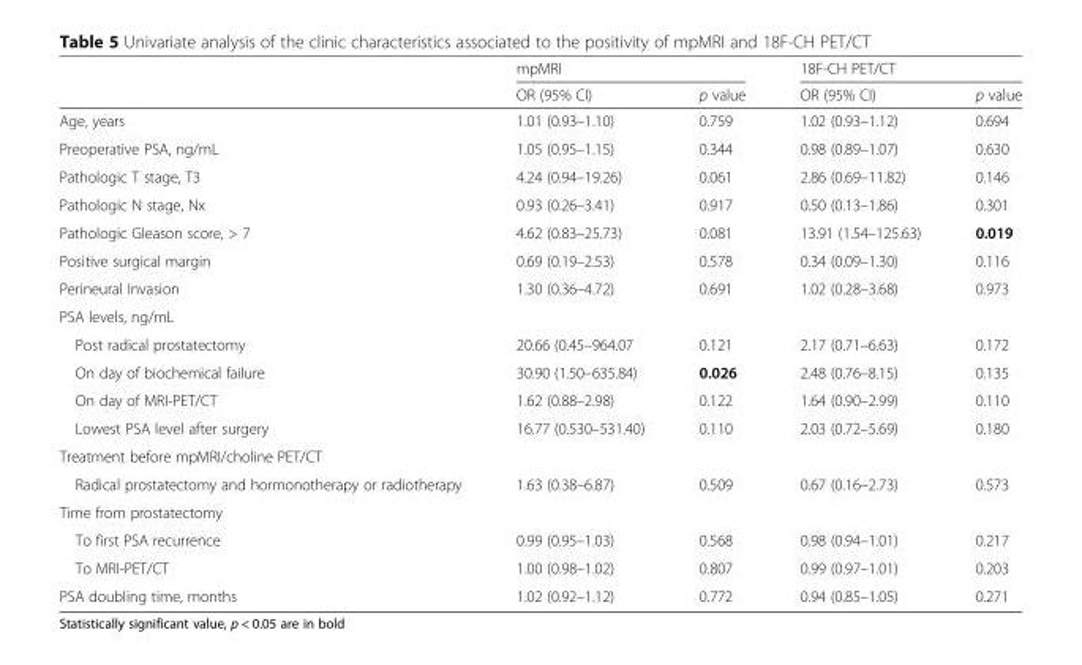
<table><thead><tr><td rowspan="2"></td><td colspan="2">mpMRI</td><td colspan="2">18F-CH PET/CT</td></tr><tr><td>OR (95% CI)</td><td>p value</td><td>OR (95% CI)</td><td>p value</td></tr></thead><tbody><tr><td>Age, years</td><td>1.01 (0.93–1.10)</td><td>0.759</td><td>1.02 (0.93–1.12)</td><td>0.694</td></tr><tr><td>Preoperative PSA, ng/mL</td><td>1.05 (0.95–1.15)</td><td>0.344</td><td>0.98 (0.89–1.07)</td><td>0.630</td></tr><tr><td>Pathologic T stage, T3</td><td>4.24 (0.94–19.26)</td><td>0.061</td><td>2.86 (0.69–11.82)</td><td>0.146</td></tr><tr><td>Pathologic N stage, Nx</td><td>0.93 (0.26–3.41)</td><td>0.917</td><td>0.50 (0.13–1.86)</td><td>0.301</td></tr><tr><td>Pathologic Gleason score, &gt; 7</td><td>4.62 (0.83–25.73)</td><td>0.081</td><td>13.91 (1.54–125.63)</td><td>0.019</td></tr><tr><td>Positive surgical margin</td><td>0.69 (0.19–2.53)</td><td>0.578</td><td>0.34 (0.09–1.30)</td><td>0.116</td></tr><tr><td>Perineural Invasion</td><td>1.30 (0.36–4.72)</td><td>0.691</td><td>1.02 (0.28–3.68)</td><td>0.973</td></tr><tr><td colspan="5">PSA levels, ng/mL</td></tr><tr><td>Post radical prostatectomy</td><td>20.66 (0.45–964.07</td><td>0.121</td><td>2.17 (0.71–6.63)</td><td>0.172</td></tr><tr><td>On day of biochemical failure</td><td>30.90 (1.50–635.84)</td><td>0.026</td><td>2.48 (0.76–8.15)</td><td>0.135</td></tr><tr><td>On day of MRI-PET/CT</td><td>1.62 (0.88–2.98)</td><td>0.122</td><td>1.64 (0.90–2.99)</td><td>0.110</td></tr><tr><td>Lowest PSA level after surgery</td><td>16.77 (0.530–531.40)</td><td>0.110</td><td>2.03 (0.72–5.69)</td><td>0.180</td></tr><tr><td colspan="5">Treatment before mpMRI/choline PET/CT</td></tr><tr><td>Radical prostatectomy and hormonotherapy or radiotherapy</td><td>1.63 (0.38–6.87)</td><td>0.509</td><td>0.67 (0.16–2.73)</td><td>0.573</td></tr><tr><td colspan="5">Time from prostatectomy</td></tr><tr><td>To first PSA recurrence</td><td>0.99 (0.95–1.03)</td><td>0.568</td><td>0.98 (0.94–1.01)</td><td>0.217</td></tr><tr><td>To MRI-PET/CT</td><td>1.00 (0.98–1.02)</td><td>0.807</td><td>0.99 (0.97–1.01)</td><td>0.203</td></tr><tr><td>PSA doubling time, months</td><td>1.02 (0.92–1.12)</td><td>0.772</td><td>0.94 (0.85–1.05)</td><td>0.271</td></tr></tbody></table>